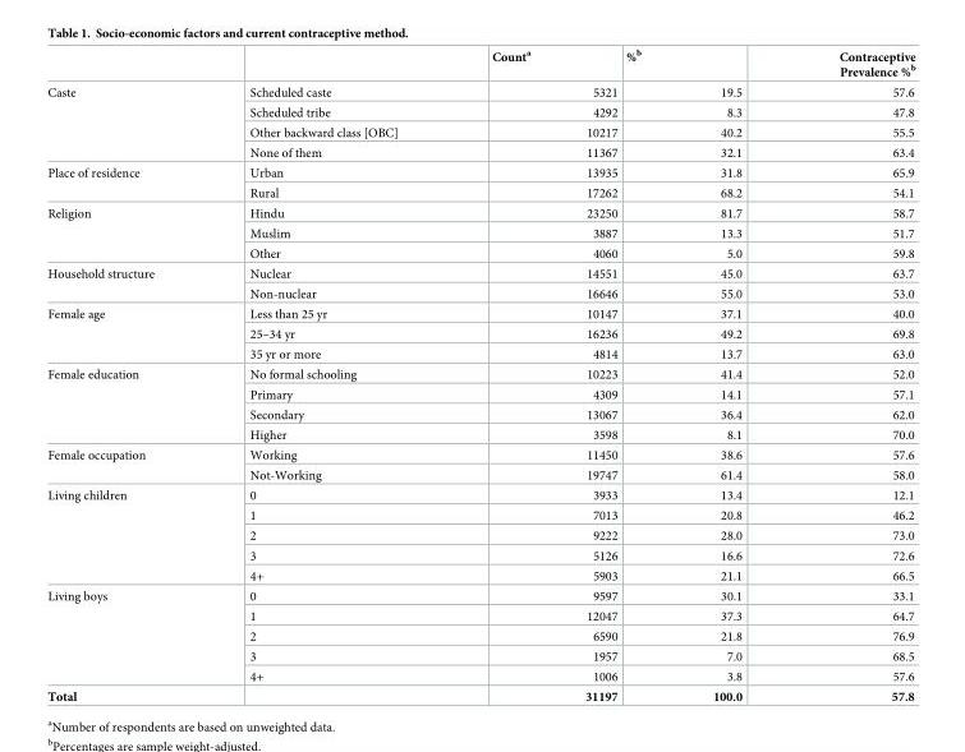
<table><thead><tr><td></td><td></td><td>Count<sup>a</sup></td><td>%<sup>b</sup></td><td>Contraceptive Prevalence %<sup>b</sup></td></tr></thead><tbody><tr><td rowspan="4">Caste</td><td>Scheduled caste</td><td>5321</td><td>19.5</td><td>57.6</td></tr><tr><td>Scheduled tribe</td><td>4292</td><td>8.3</td><td>47.8</td></tr><tr><td>Other backward class [OBC]</td><td>10217</td><td>40.2</td><td>55.5</td></tr><tr><td>None of them</td><td>11367</td><td>32.1</td><td>63.4</td></tr><tr><td rowspan="2">Place of residence</td><td>Urban</td><td>13935</td><td>31.8</td><td>65.9</td></tr><tr><td>Rural</td><td>17262</td><td>68.2</td><td>54.1</td></tr><tr><td rowspan="3">Religion</td><td>Hindu</td><td>23250</td><td>81.7</td><td>58.7</td></tr><tr><td>Muslim</td><td>3887</td><td>13.3</td><td>51.7</td></tr><tr><td>Other</td><td>4060</td><td>5.0</td><td>59.8</td></tr><tr><td rowspan="2">Household structure</td><td>Nuclear</td><td>14551</td><td>45.0</td><td>63.7</td></tr><tr><td>Non-nuclear</td><td>16646</td><td>55.0</td><td>53.0</td></tr><tr><td rowspan="3">Female age</td><td>Less than 25 yr</td><td>10147</td><td>37.1</td><td>40.0</td></tr><tr><td>25–34 yr</td><td>16236</td><td>49.2</td><td>69.8</td></tr><tr><td>35 yr or more</td><td>4814</td><td>13.7</td><td>63.0</td></tr><tr><td rowspan="4">Female education</td><td>No formal schooling</td><td>10223</td><td>41.4</td><td>52.0</td></tr><tr><td>Primary</td><td>4309</td><td>14.1</td><td>57.1</td></tr><tr><td>Secondary</td><td>13067</td><td>36.4</td><td>62.0</td></tr><tr><td>Higher</td><td>3598</td><td>8.1</td><td>70.0</td></tr><tr><td rowspan="2">Female occupation</td><td>Working</td><td>11450</td><td>38.6</td><td>57.6</td></tr><tr><td>Not-Working</td><td>19747</td><td>61.4</td><td>58.0</td></tr><tr><td rowspan="5">Living children</td><td>0</td><td>3933</td><td>13.4</td><td>12.1</td></tr><tr><td>1</td><td>7013</td><td>20.8</td><td>46.2</td></tr><tr><td>2</td><td>9222</td><td>28.0</td><td>73.0</td></tr><tr><td>3</td><td>5126</td><td>16.6</td><td>72.6</td></tr><tr><td>4+</td><td>5903</td><td>21.1</td><td>66.5</td></tr><tr><td rowspan="5">Living boys</td><td>0</td><td>9597</td><td>30.1</td><td>33.1</td></tr><tr><td>1</td><td>12047</td><td>37.3</td><td>64.7</td></tr><tr><td>2</td><td>6590</td><td>21.8</td><td>76.9</td></tr><tr><td>3</td><td>1957</td><td>7.0</td><td>68.5</td></tr><tr><td>4+</td><td>1006</td><td>3.8</td><td>57.6</td></tr><tr><td>Total</td><td></td><td>31197</td><td>100.0</td><td>57.8</td></tr></tbody></table>